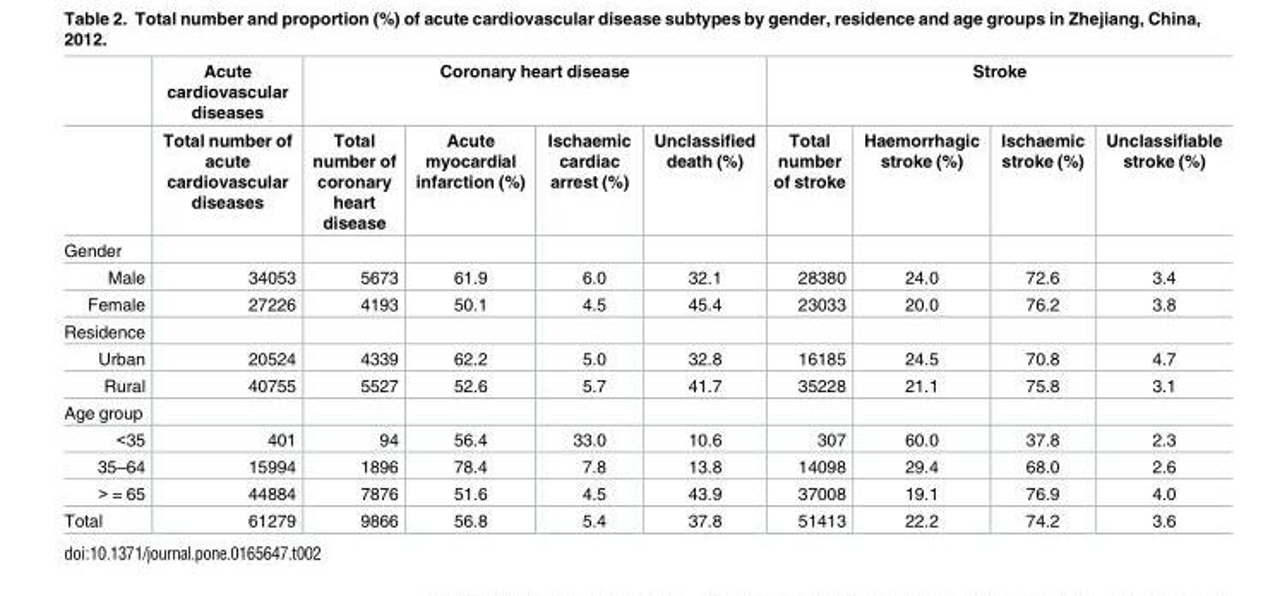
<table><thead><tr><td rowspan="2"></td><td rowspan="2">Acute cardiovascular diseases Total number of acute cardiovascular diseases</td><td colspan="4">Coronary heart disease</td><td colspan="4">Stroke</td></tr><tr><td>Total number of coronary heart disease</td><td>Acute myocardial infarction (%)</td><td>Ischaemic cardiac arrest (%)</td><td>Unclassified death (%)</td><td>Total number of stroke</td><td>Haemorrhagic stroke (%)</td><td>Ischaemic stroke (%)</td><td>Unclassifiable stroke (%)</td></tr></thead><tbody><tr><td colspan="10">Gender</td></tr><tr><td>Male</td><td>34053</td><td>5673</td><td>61.9</td><td>6.0</td><td>32.1</td><td>28380</td><td>24.0</td><td>72.6</td><td>3.4</td></tr><tr><td>Female</td><td>27226</td><td>4193</td><td>50.1</td><td>4.5</td><td>45.4</td><td>23033</td><td>20.0</td><td>76.2</td><td>3.8</td></tr><tr><td colspan="10">Residence</td></tr><tr><td>Urban</td><td>20524</td><td>4339</td><td>62.2</td><td>5.0</td><td>32.8</td><td>16185</td><td>24.5</td><td>70.8</td><td>4.7</td></tr><tr><td>Rural</td><td>40755</td><td>5527</td><td>52.6</td><td>5.7</td><td>41.7</td><td>35228</td><td>21.1</td><td>75.8</td><td>3.1</td></tr><tr><td colspan="10">Age group</td></tr><tr><td>&lt;35</td><td>401</td><td>94</td><td>56.4</td><td>33.0</td><td>10.6</td><td>307</td><td>60.0</td><td>37.8</td><td>2.3</td></tr><tr><td>35–64</td><td>15994</td><td>1896</td><td>78.4</td><td>7.8</td><td>13.8</td><td>14098</td><td>29.4</td><td>68.0</td><td>2.6</td></tr><tr><td>&gt; = 65</td><td>44884</td><td>7876</td><td>51.6</td><td>4.5</td><td>43.9</td><td>37008</td><td>19.1</td><td>76.9</td><td>4.0</td></tr><tr><td>Total</td><td>61279</td><td>9866</td><td>56.8</td><td>5.4</td><td>37.8</td><td>51413</td><td>22.2</td><td>74.2</td><td>3.6</td></tr></tbody></table>